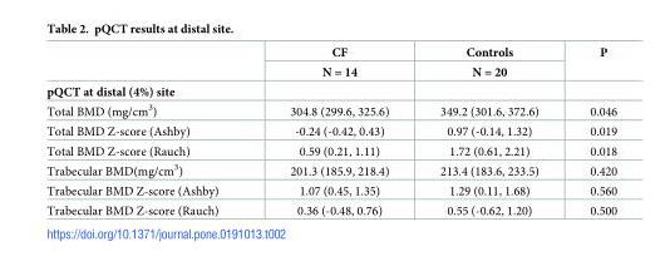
<table><thead><tr><td rowspan="2"></td><td rowspan="2">CF N = 14</td><td rowspan="2">Controls N = 20</td><td rowspan="2">P</td></tr><tr></tr></thead><tbody><tr><td colspan="4">pQCT at distal (4%) site</td></tr><tr><td>Total BMD (mg/cm<sup>3</sup>)</td><td>304.8 (299.6, 325.6)</td><td>349.2 (301.6, 372.6)</td><td>0.046</td></tr><tr><td>Total BMD Z-score (Ashby)</td><td>-0.24 (-0.42, 0.43)</td><td>0.97 (-0.14, 1.32)</td><td>0.019</td></tr><tr><td>Total BMD Z-score (Rauch)</td><td>0.59 (0.21, 1.11)</td><td>1.72 (0.61, 2.21)</td><td>0.018</td></tr><tr><td>Trabecular BMD(mg/cm<sup>3</sup>)</td><td>201.3 (185.9, 218.4)</td><td>213.4 (183.6, 233.5)</td><td>0.420</td></tr><tr><td>Trabecular BMD Z-score (Ashby)</td><td>1.07 (0.45, 1.35)</td><td>1.29 (0.11, 1.68)</td><td>0.560</td></tr><tr><td>Trabecular BMD Z-score (Rauch)</td><td>0.36 (-0.48, 0.76)</td><td>0.55 (-0.62, 1.20)</td><td>0.500</td></tr></tbody></table>